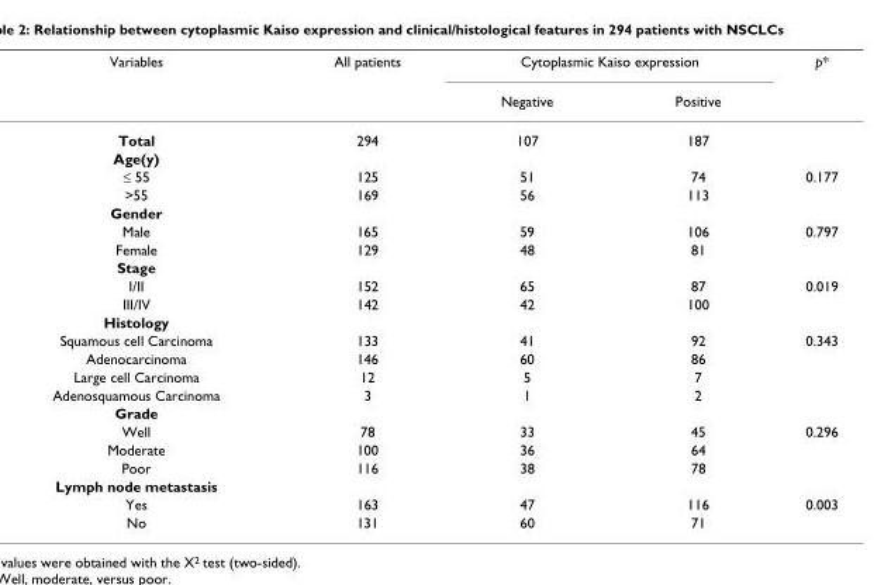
<table><thead><tr><td rowspan="2">Variables</td><td rowspan="2">All patients</td><td colspan="2">Cytoplasmic Kaiso expression</td><td rowspan="2">p*</td></tr><tr><td>Negative</td><td>Positive</td></tr></thead><tbody><tr><td>Total</td><td>294</td><td>107</td><td>187</td><td></td></tr><tr><td colspan="5">Age(y)</td></tr><tr><td>≤ 55</td><td>125</td><td>51</td><td>74</td><td>0.177</td></tr><tr><td>&gt;55</td><td>169</td><td>56</td><td>113</td><td></td></tr><tr><td colspan="5">Gender</td></tr><tr><td>Male</td><td>165</td><td>59</td><td>106</td><td>0.797</td></tr><tr><td>Female</td><td>129</td><td>48</td><td>81</td><td></td></tr><tr><td colspan="5">Stage</td></tr><tr><td>I/II</td><td>152</td><td>65</td><td>87</td><td>0.019</td></tr><tr><td>III/IV</td><td>142</td><td>42</td><td>100</td><td></td></tr><tr><td colspan="5">Histology</td></tr><tr><td>Squamous cell Carcinoma</td><td>133</td><td>41</td><td>92</td><td>0.343</td></tr><tr><td>Adenocarcinoma</td><td>146</td><td>60</td><td>86</td><td></td></tr><tr><td>Large cell Carcinoma</td><td>12</td><td>5</td><td>7</td><td></td></tr><tr><td>Adenosquamous Carcinoma</td><td>3</td><td>1</td><td>2</td><td></td></tr><tr><td colspan="5">Grade</td></tr><tr><td>Well</td><td>78</td><td>33</td><td>45</td><td>0.296</td></tr><tr><td>Moderate</td><td>100</td><td>36</td><td>64</td><td></td></tr><tr><td>Poor</td><td>116</td><td>38</td><td>78</td><td></td></tr><tr><td colspan="5">Lymph node metastasis</td></tr><tr><td>Yes</td><td>163</td><td>47</td><td>116</td><td>0.003</td></tr><tr><td>No</td><td>131</td><td>60</td><td>71</td><td></td></tr></tbody></table>